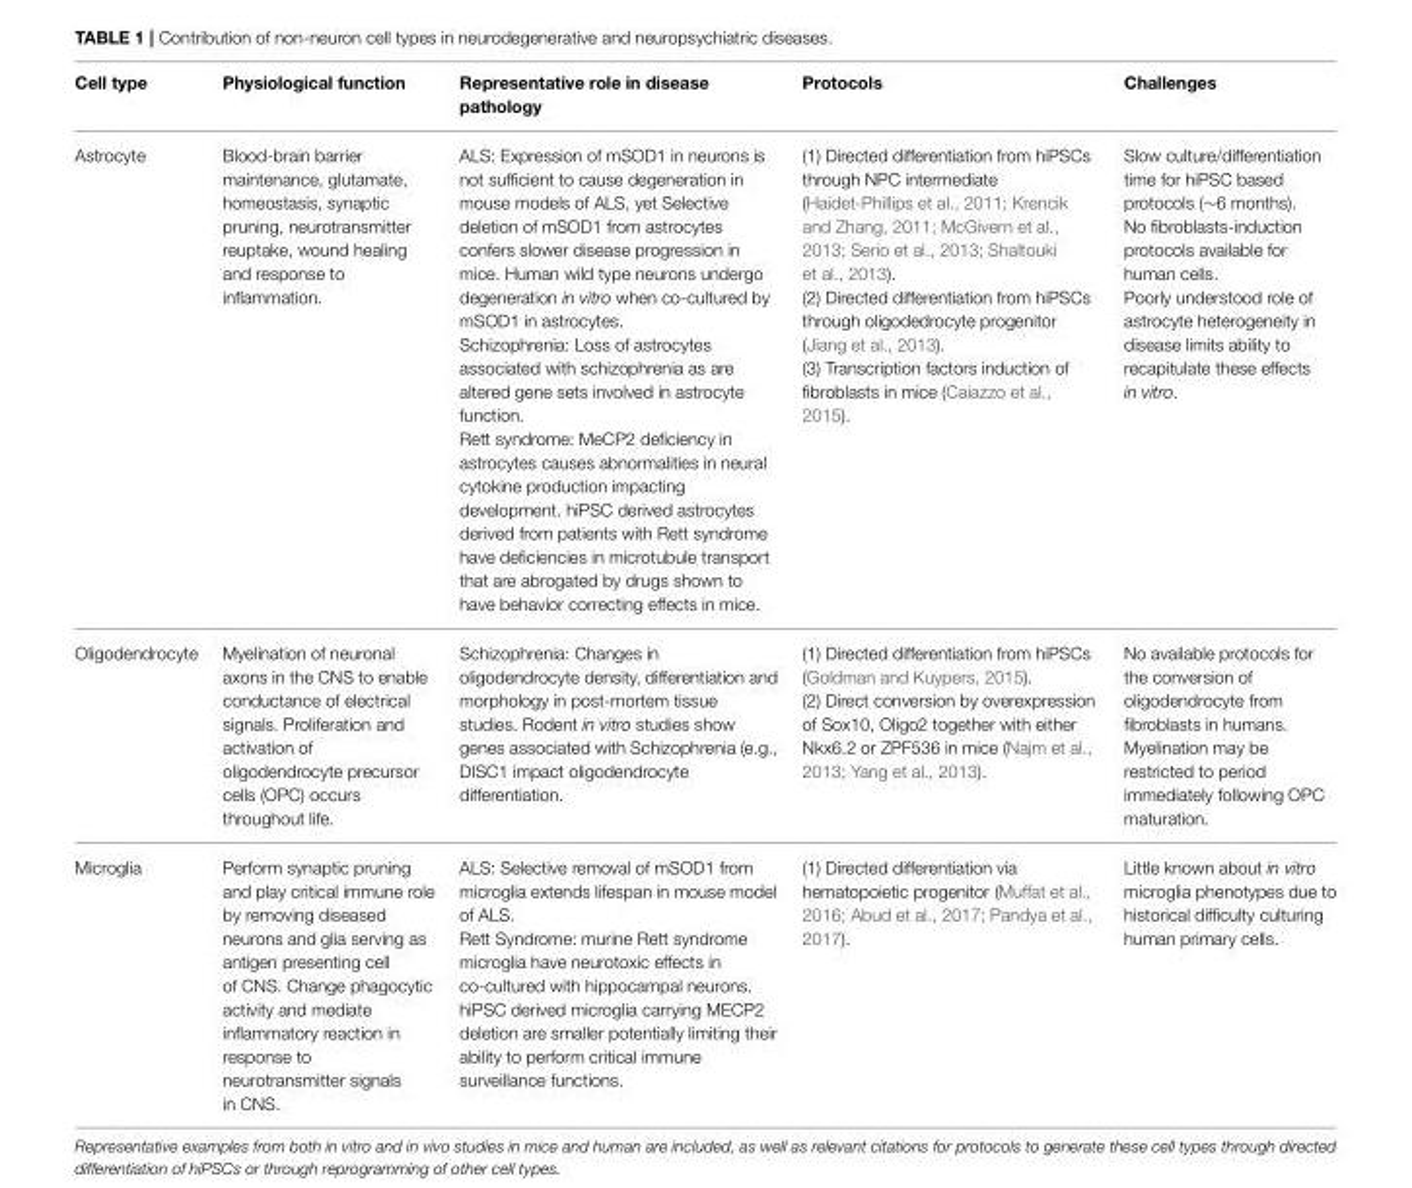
<table><thead><tr><td>Cell type</td><td>Physiological function</td><td>Representative role in disease pathology</td><td>Protocols</td><td>Challenges</td></tr></thead><tbody><tr><td>Astrocyte</td><td>Blood-brain barrier maintenance, glutamate, homeostasis, synaptic pruning, neurotransmitter reuptake, wound healing and response to inflammation.</td><td>ALS: Expression of mSOD1 in neurons is not sufficient to cause degeneration in mouse models of ALS, yet Selective deletion of mSOD1 from astrocytes confers slower disease progression in mice. Human wild type neurons undergo degeneration in vitro when co-cultured by mSOD1 in astrocytes. Schizophrenia: Loss of astrocytes associated with schizophrenia as are altered gene sets involved in astrocyte function. Rett syndrome: MeCP2 deficiency in astrocytes causes abnormalities in neural cytokine production impacting development. hiPSC derived astrocytes derived from patients with Rett syndrome have deficiencies in microtubule transport that are abrogated by drugs shown to have behavior correcting effects in mice.</td><td>(1) Directed differentiation from hiPSCs through NPC intermediate (Haidet-Phillips et al., 2011; Krencik and Zhang, 2011; McGivern et al., 2013; Serio et al., 2013; Shaltouki et al., 2013). (2) Directed differentiation from hiPSCs through oligodedrocyte progenitor (Jiang et al., 2013). (3) Transcription factors induction of fibroblasts in mice (Caiazzo et al., 2015).</td><td>Slow culture/differentiation time for hiPSC based protocols (∼6 months). No fibroblasts-induction protocols available for human cells. Poorly understood role of astrocyte heterogeneity in disease limits ability to recapitulate these effects in vitro.</td></tr><tr><td>Oligodendrocyte</td><td>Myelination of neuronal axons in the CNS to enable conductance of electrical signals. Proliferation and activation of oligodendrocyte precursor cells (OPC) occurs throughout life.</td><td>Schizophrenia: Changes in oligodendrocyte density, differentiation and morphology in post-mortem tissue studies. Rodent in vitro studies show genes associated with Schizophrenia (e.g., DISC1 impact oligodendrocyte differentiation.</td><td>(1) Directed differentiation from hiPSCs (Goldman and Kuypers, 2015). (2) Direct conversion by overexpression of Sox10, Oligo2 together with either Nkx6.2 or ZPF536 in mice (Najm et al., 2013; Yang et al., 2013).</td><td>No available protocols for the conversion of oligodendrocyte from fibroblasts in humans. Myelination may be restricted to period immediately following OPC maturation.</td></tr><tr><td>Microglia</td><td>Perform synaptic pruning and play critical immune role by removing diseased neurons and glia serving as antigen presenting cell of CNS. Change phagocytic activity and mediate inflammatory reaction in response to neurotransmitter signals in CNS.</td><td>ALS: Selective removal of mSOD1 from microglia extends lifespan in mouse model of ALS. Rett Syndrome: murine Rett syndrome microglia have neurotoxic effects in co-cultured with hippocampal neurons. hiPSC derived microglia carrying MECP2 deletion are smaller potentially limiting their ability to perform critical immune surveillance functions.</td><td>(1) Directed differentiation via hematopoietic progenitor (Muffat et al., 2016; Abud et al., 2017; Pandya et al., 2017).</td><td>Little known about in vitro microglia phenotypes due to historical difficulty culturing human primary cells.</td></tr></tbody></table>